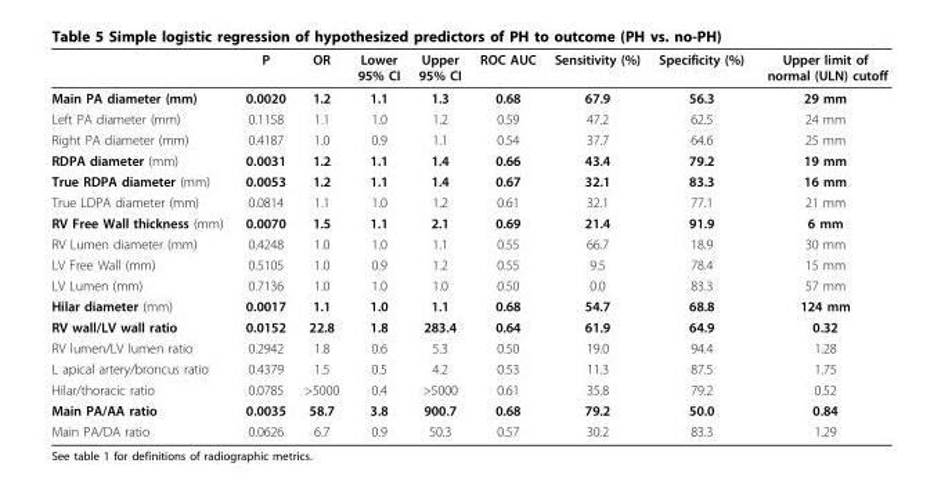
<table><thead><tr><td></td><td>P</td><td>OR</td><td>Lower 95% CI</td><td>Upper 95% CI</td><td>ROC AUC</td><td>Sensitivity (%)</td><td>Specificity (%)</td><td>Upper limit of normal (ULN) cutoff</td></tr></thead><tbody><tr><td>Main PA diameter (mm)</td><td>0.0020</td><td>1.2</td><td>1.1</td><td>1.3</td><td>0.68</td><td>67.9</td><td>56.3</td><td>29 mm</td></tr><tr><td>Left PA diameter (mm)</td><td>0.1158</td><td>1.1</td><td>1.0</td><td>1.2</td><td>0.59</td><td>47.2</td><td>62.5</td><td>24 mm</td></tr><tr><td>Right PA diameter (mm)</td><td>0.4187</td><td>1.0</td><td>0.9</td><td>1.1</td><td>0.54</td><td>37.7</td><td>64.6</td><td>25 mm</td></tr><tr><td>RDPA diameter (mm)</td><td>0.0031</td><td>1.2</td><td>1.1</td><td>1.4</td><td>0.66</td><td>43.4</td><td>79.2</td><td>19 mm</td></tr><tr><td>True RDPA diameter (mm)</td><td>0.0053</td><td>1.2</td><td>1.1</td><td>1.4</td><td>0.67</td><td>32.1</td><td>83.3</td><td>16 mm</td></tr><tr><td>True LDPA diameter (mm)</td><td>0.0814</td><td>1.1</td><td>1.0</td><td>1.2</td><td>0.61</td><td>32.1</td><td>77.1</td><td>21 mm</td></tr><tr><td>RV Free Wall thickness (mm)</td><td>0.0070</td><td>1.5</td><td>1.1</td><td>2.1</td><td>0.69</td><td>21.4</td><td>91.9</td><td>6 mm</td></tr><tr><td>RV Lumen diameter (mm)</td><td>0.4248</td><td>1.0</td><td>1.0</td><td>1.1</td><td>0.55</td><td>66.7</td><td>18.9</td><td>30 mm</td></tr><tr><td>LV Free Wall (mm)</td><td>0.5105</td><td>1.0</td><td>0.9</td><td>1.2</td><td>0.55</td><td>9.5</td><td>78.4</td><td>15 mm</td></tr><tr><td>LV Lumen (mm)</td><td>0.7136</td><td>1.0</td><td>1.0</td><td>1.0</td><td>0.50</td><td>0.0</td><td>83.3</td><td>57 mm</td></tr><tr><td>Hilar diameter (mm)</td><td>0.0017</td><td>1.1</td><td>1.0</td><td>1.1</td><td>0.68</td><td>54.7</td><td>68.8</td><td>124 mm</td></tr><tr><td>RV wall/LV wall ratio</td><td>0.0152</td><td>22.8</td><td>1.8</td><td>283.4</td><td>0.64</td><td>61.9</td><td>64.9</td><td>0.32</td></tr><tr><td>RV lumen/LV lumen ratio</td><td>0.2942</td><td>1.8</td><td>0.6</td><td>5.3</td><td>0.50</td><td>19.0</td><td>94.4</td><td>1.28</td></tr><tr><td>L apical artery/broncus ratio</td><td>0.4379</td><td>1.5</td><td>0.5</td><td>4.2</td><td>0.53</td><td>11.3</td><td>87.5</td><td>1.75</td></tr><tr><td>Hilar/thoracic ratio</td><td>0.0785</td><td>&gt;5000</td><td>0.4</td><td>&gt;5000</td><td>0.61</td><td>35.8</td><td>79.2</td><td>0.52</td></tr><tr><td>Main PA/AA ratio</td><td>0.0035</td><td>58.7</td><td>3.8</td><td>900.7</td><td>0.68</td><td>79.2</td><td>50.0</td><td>0.84</td></tr><tr><td>Main PA/DA ratio</td><td>0.0626</td><td>6.7</td><td>0.9</td><td>50.3</td><td>0.57</td><td>30.2</td><td>83.3</td><td>1.29</td></tr></tbody></table>